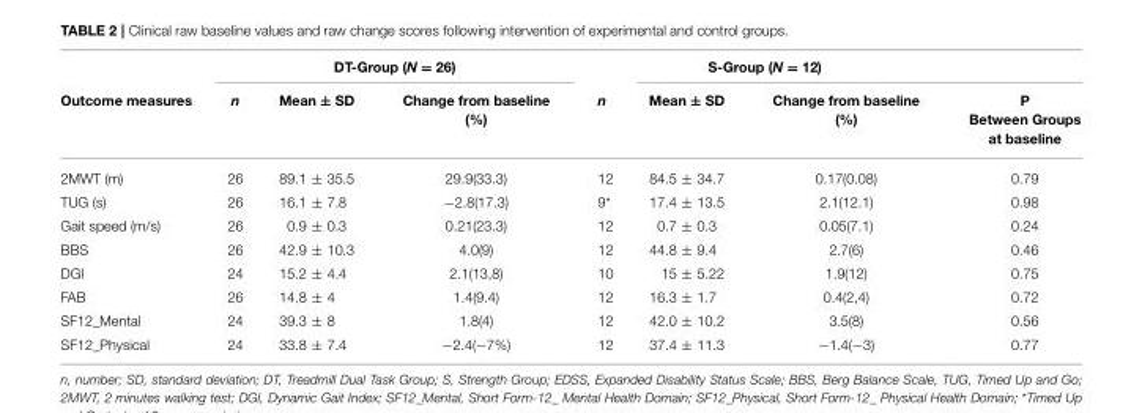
<table><thead><tr><td rowspan="2">Outcome measures</td><td colspan="3">DT-Group (N = 26)</td><td rowspan="2">n</td><td colspan="2">S-Group (N = 12)</td><td rowspan="2">P Between Groups at baseline</td></tr><tr><td>n</td><td>Mean ± SD</td><td>Change from baseline (%)</td><td>Mean ± SD</td><td>Change from baseline (%)</td></tr></thead><tbody><tr><td>2MWT (m)</td><td>26</td><td>89.1 ± 35.5</td><td>29.9(33.3)</td><td>12</td><td>84.5 ± 34.7</td><td>0.17(0.08)</td><td>0.79</td></tr><tr><td>TUG (s)</td><td>26</td><td>16.1 ± 7.8</td><td>−2.8(17.3)</td><td>9*</td><td>17.4 ± 13.5</td><td>2.1(12.1)</td><td>0.98</td></tr><tr><td>Gait speed (m/s)</td><td>26</td><td>0.9 ± 0.3</td><td>0.21(23.3)</td><td>12</td><td>0.7 ± 0.3</td><td>0.05(7.1)</td><td>0.24</td></tr><tr><td>BBS</td><td>26</td><td>42.9 ± 10.3</td><td>4.0(9)</td><td>12</td><td>44.8 ± 9.4</td><td>2.7(6)</td><td>0.46</td></tr><tr><td>DGI</td><td>24</td><td>15.2 ± 4.4</td><td>2.1(13,8)</td><td>10</td><td>15 ± 5.22</td><td>1.9(12)</td><td>0.75</td></tr><tr><td>FAB</td><td>26</td><td>14.8 ± 4</td><td>1.4(9.4)</td><td>12</td><td>16.3 ± 1.7</td><td>0.4(2,4)</td><td>0.72</td></tr><tr><td>SF12_Mental</td><td>24</td><td>39.3 ± 8</td><td>1.8(4)</td><td>12</td><td>42.0 ± 10.2</td><td>3.5(8)</td><td>0.56</td></tr><tr><td>SF12_Physical</td><td>24</td><td>33.8 ± 7.4</td><td>−2.4(−7%)</td><td>12</td><td>37.4 ± 11.3</td><td>−1.4(−3)</td><td>0.77</td></tr></tbody></table>